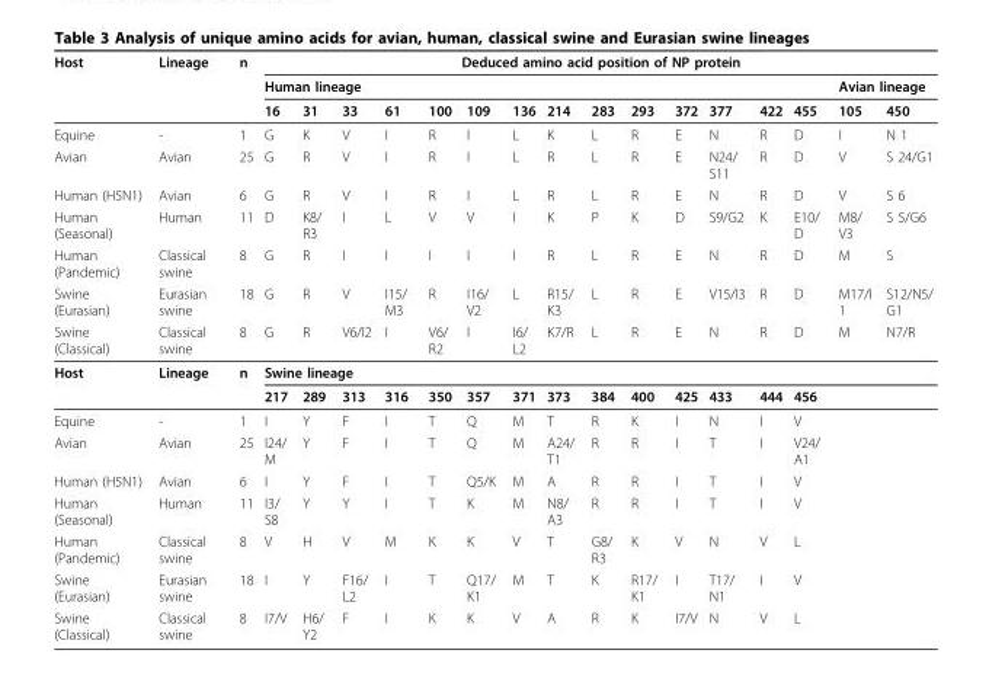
<table><thead><tr><td rowspan="3">Host</td><td rowspan="3">Lineage</td><td rowspan="3">n</td><td colspan="16">Deduced amino acid position of NP protein</td></tr><tr><td colspan="14">Human lineage</td><td colspan="2">Avian lineage</td></tr><tr><td>16</td><td>31</td><td>33</td><td>61</td><td>100</td><td>109</td><td>136</td><td>214</td><td>283</td><td>293</td><td>372</td><td>377</td><td>422</td><td>455</td><td>105</td><td>450</td></tr></thead><tbody><tr><td>Equine</td><td>-</td><td>1</td><td>G</td><td>K</td><td>V</td><td>I</td><td>R</td><td>I</td><td>L</td><td>K</td><td>L</td><td>R</td><td>E</td><td>N</td><td>R</td><td>D</td><td>I</td><td>N 1</td></tr><tr><td>Avian</td><td>Avian</td><td>25</td><td>G</td><td>R</td><td>V</td><td>I</td><td>R</td><td>I</td><td>L</td><td>R</td><td>L</td><td>R</td><td>E</td><td>N24/ S11</td><td>R</td><td>D</td><td>V</td><td>S 24/G1</td></tr><tr><td>Human (H5N1)</td><td>Avian</td><td>6</td><td>G</td><td>R</td><td>V</td><td>I</td><td>R</td><td>I</td><td>L</td><td>R</td><td>L</td><td>R</td><td>E</td><td>N</td><td>R</td><td>D</td><td>V</td><td>S 6</td></tr><tr><td>Human (Seasonal)</td><td>Human</td><td>11</td><td>D</td><td>K8/ R3</td><td>I</td><td>L</td><td>V</td><td>V</td><td>I</td><td>K</td><td>P</td><td>K</td><td>D</td><td>S9/G2</td><td>K</td><td>E10/ D</td><td>M8/ V3</td><td>S 5/G6</td></tr><tr><td>Human (Pandemic)</td><td>Classical swine</td><td>8</td><td>G</td><td>R</td><td>I</td><td>I</td><td>I</td><td>I</td><td>I</td><td>R</td><td>L</td><td>R</td><td>E</td><td>N</td><td>R</td><td>D</td><td>M</td><td>S</td></tr><tr><td>Swine (Eurasian)</td><td>Eurasian swine</td><td>18</td><td>G</td><td>R</td><td>V</td><td>I15/ M3</td><td>R</td><td>I16/ V2</td><td>L</td><td>R15/ K3</td><td>L</td><td>R</td><td>E</td><td>V15/I3</td><td>R</td><td>D</td><td>M17/I 1</td><td>S12/N5/ G1</td></tr><tr><td>Swine (Classical)</td><td>Classical swine</td><td>8</td><td>G</td><td>R</td><td>V6/I2</td><td>I</td><td>V6/ R2</td><td>I</td><td>I6/ L2</td><td>K7/R</td><td>L</td><td>R</td><td>E</td><td>N</td><td>R</td><td>D</td><td>M</td><td>N7/R</td></tr><tr><td rowspan="2">Host</td><td>Lineage</td><td>n</td><td colspan="16">Swine lineage</td></tr><tr><td></td><td></td><td>217</td><td>289</td><td>313</td><td>316</td><td>350</td><td>357</td><td>371</td><td>373</td><td>384</td><td>400</td><td>425</td><td>433</td><td>444</td><td>456</td><td></td><td></td></tr><tr><td>Equine</td><td>-</td><td>1</td><td>I</td><td>Y</td><td>F</td><td>I</td><td>T</td><td>Q</td><td>M</td><td>T</td><td>R</td><td>K</td><td>I</td><td>N</td><td>I</td><td>V</td><td></td><td></td></tr><tr><td>Avian</td><td>Avian</td><td>25</td><td>I24/ M</td><td>Y</td><td>F</td><td>I</td><td>T</td><td>Q</td><td>M</td><td>A24/ T1</td><td>R</td><td>R</td><td>I</td><td>T</td><td>I</td><td>V24/ A1</td><td></td><td></td></tr><tr><td>Human (H5N1)</td><td>Avian</td><td>6</td><td>I</td><td>Y</td><td>F</td><td>I</td><td>T</td><td>Q5/K</td><td>M</td><td>A</td><td>R</td><td>R</td><td>I</td><td>T</td><td>I</td><td>V</td><td></td><td></td></tr><tr><td>Human (Seasonal)</td><td>Human</td><td>11</td><td>I3/ S8</td><td>Y</td><td>Y</td><td>I</td><td>T</td><td>K</td><td>M</td><td>N8/ A3</td><td>R</td><td>R</td><td>I</td><td>T</td><td>I</td><td>V</td><td></td><td></td></tr><tr><td>Human (Pandemic)</td><td>Classical swine</td><td>8</td><td>V</td><td>H</td><td>V</td><td>M</td><td>K</td><td>K</td><td>V</td><td>T</td><td>G8/ R3</td><td>K</td><td>V</td><td>N</td><td>V</td><td>L</td><td></td><td></td></tr><tr><td>Swine (Eurasian)</td><td>Eurasian swine</td><td>18</td><td>I</td><td>Y</td><td>F16/ L2</td><td>I</td><td>T</td><td>Q17/ K1</td><td>M</td><td>T</td><td>K</td><td>R17/ K1</td><td>I</td><td>T17/ N1</td><td>I</td><td>V</td><td></td><td></td></tr><tr><td>Swine (Classical)</td><td>Classical swine</td><td>8</td><td>I7/V</td><td>H6/ Y2</td><td>F</td><td>I</td><td>K</td><td>K</td><td>V</td><td>A</td><td>R</td><td>K</td><td>I7/V</td><td>N</td><td>V</td><td>L</td><td></td><td></td></tr></tbody></table>